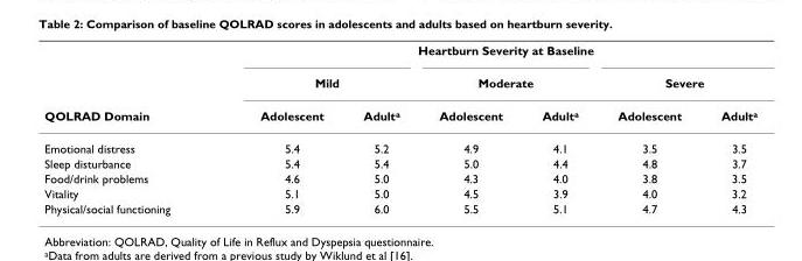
<table><thead><tr><td rowspan="3">QOLRAD Domain</td><td colspan="6">Heartburn Severity at Baseline</td></tr><tr><td colspan="2">Mild</td><td colspan="2">Moderate</td><td colspan="2">Severe</td></tr><tr><td>Adolescent</td><td>Adult<sup>a</sup></td><td>Adolescent</td><td>Adult<sup>a</sup></td><td>Adolescent</td><td>Adult<sup>a</sup></td></tr></thead><tbody><tr><td>Emotional distress</td><td>5.4</td><td>5.2</td><td>4.9</td><td>4.1</td><td>3.5</td><td>3.5</td></tr><tr><td>Sleep disturbance</td><td>5.4</td><td>5.4</td><td>5.0</td><td>4.4</td><td>4.8</td><td>3.7</td></tr><tr><td>Food/drink problems</td><td>4.6</td><td>5.0</td><td>4.3</td><td>4.0</td><td>3.8</td><td>3.5</td></tr><tr><td>Vitality</td><td>5.1</td><td>5.0</td><td>4.5</td><td>3.9</td><td>4.0</td><td>3.2</td></tr><tr><td>Physical/social functioning</td><td>5.9</td><td>6.0</td><td>5.5</td><td>5.1</td><td>4.7</td><td>4.3</td></tr></tbody></table>